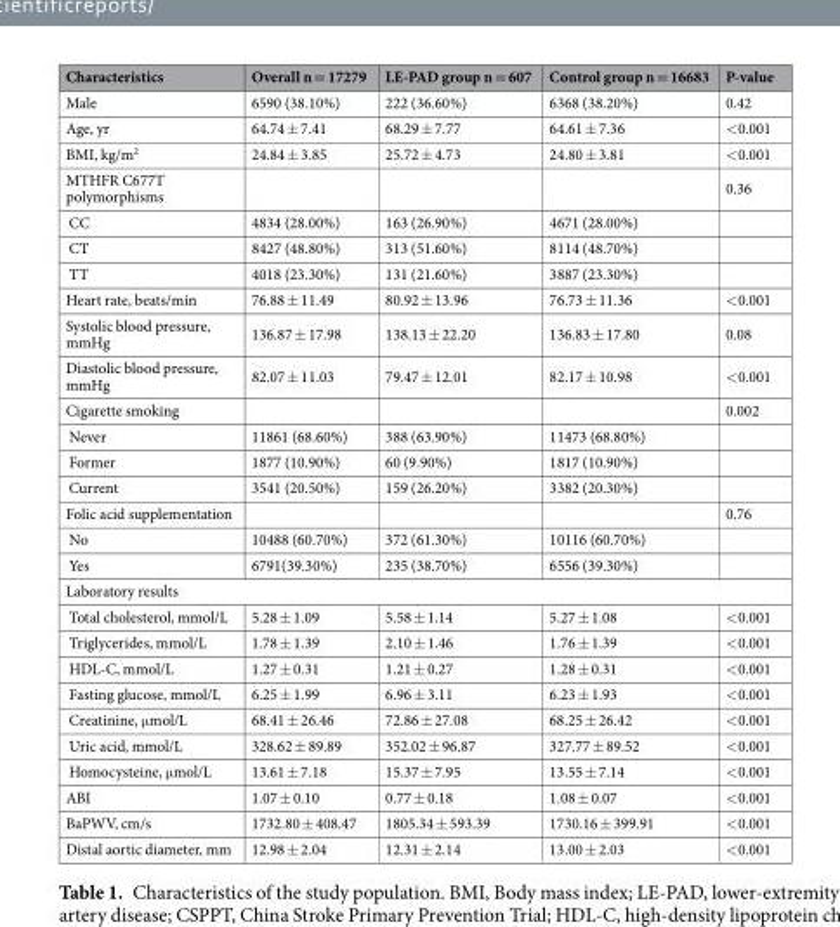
<table><thead><tr><td>Characteristics</td><td>Overall n = 17279</td><td>LE-PAD group n = 607</td><td>Control group n = 16683</td><td>P-value</td></tr></thead><tbody><tr><td>Male</td><td>6590 (38.10%)</td><td>222 (36.60%)</td><td>6368 (38.20%)</td><td>0.42</td></tr><tr><td>Age, yr</td><td>64.74 ± 7.41</td><td>68.29 ± 7.77</td><td>64.61 ± 7.36</td><td>&lt;0.001</td></tr><tr><td>BMI, kg/m<sup>2</sup></td><td>24.84 ± 3.85</td><td>25.72 ± 4.73</td><td>24.80 ± 3.81</td><td>&lt;0.001</td></tr><tr><td>MTHFR C677T polymorphisms</td><td></td><td></td><td></td><td>0.36</td></tr><tr><td>CC</td><td>4834 (28.00%)</td><td>163 (26.90%)</td><td>4671 (28.00%)</td><td></td></tr><tr><td>CT</td><td>8427 (48.80%)</td><td>313 (51.60%)</td><td>8114 (48.70%)</td><td></td></tr><tr><td>TT</td><td>4018 (23.30%)</td><td>131 (21.60%)</td><td>3887 (23.30%)</td><td></td></tr><tr><td>Heart rate, beats/min</td><td>76.88 ± 11.49</td><td>80.92 ± 13.96</td><td>76.73 ± 11.36</td><td>&lt;0.001</td></tr><tr><td>Systolic blood pressure, mmHg</td><td>136.87 ± 17.98</td><td>138.13 ± 22.20</td><td>136.83 ± 17.80</td><td>0.08</td></tr><tr><td>Diastolic blood pressure, mmHg</td><td>82.07 ± 11.03</td><td>79.47 ± 12.01</td><td>82.17 ± 10.98</td><td>&lt;0.001</td></tr><tr><td>Cigarette smoking</td><td></td><td></td><td></td><td>0.002</td></tr><tr><td>Never</td><td>11861 (68.60%)</td><td>388 (63.90%)</td><td>11473 (68.80%)</td><td></td></tr><tr><td>Former</td><td>1877 (10.90%)</td><td>60 (9.90%)</td><td>1817 (10.90%)</td><td></td></tr><tr><td>Current</td><td>3541 (20.50%)</td><td>159 (26.20%)</td><td>3382 (20.30%)</td><td></td></tr><tr><td>Folic acid supplementation</td><td></td><td></td><td></td><td>0.76</td></tr><tr><td>No</td><td>10488 (60.70%)</td><td>372 (61.30%)</td><td>10116 (60.70%)</td><td></td></tr><tr><td>Yes</td><td>6791(39.30%)</td><td>235 (38.70%)</td><td>6556 (39.30%)</td><td></td></tr><tr><td colspan="5">Laboratory results</td></tr><tr><td>Total cholesterol, mmol/L</td><td>5.28 ± 1.09</td><td>5.58 ± 1.14</td><td>5.27 ± 1.08</td><td>&lt;0.001</td></tr><tr><td>Triglycerides, mmol/L</td><td>1.78 ± 1.39</td><td>2.10 ± 1.46</td><td>1.76 ± 1.39</td><td>&lt;0.001</td></tr><tr><td>HDL-C, mmol/L</td><td>1.27 ± 0.31</td><td>1.21 ± 0.27</td><td>1.28 ± 0.31</td><td>&lt;0.001</td></tr><tr><td>Fasting glucose, mmol/L</td><td>6.25 ± 1.99</td><td>6.96 ± 3.11</td><td>6.23 ± 1.93</td><td>&lt;0.001</td></tr><tr><td>Creatinine, μmol/L</td><td>68.41 ± 26.46</td><td>72.86 ± 27.08</td><td>68.25 ± 26.42</td><td>&lt;0.001</td></tr><tr><td>Uric acid, mmol/L</td><td>328.62 ± 89.89</td><td>352.02 ± 96.87</td><td>327.77 ± 89.52</td><td>&lt;0.001</td></tr><tr><td>Homocysteine, μmol/L</td><td>13.61 ± 7.18</td><td>15.37 ± 7.95</td><td>13.55 ± 7.14</td><td>&lt;0.001</td></tr><tr><td>ABI</td><td>1.07 ± 0.10</td><td>0.77 ± 0.18</td><td>1.08 ± 0.07</td><td>&lt;0.001</td></tr><tr><td>BaPWV, cm/s</td><td>1732.80 ± 408.47</td><td>1805.34 ± 593.39</td><td>1730.16 ± 399.91</td><td>&lt;0.001</td></tr><tr><td>Distal aortic diameter, mm</td><td>12.98 ± 2.04</td><td>12.31 ± 2.14</td><td>13.00 ± 2.03</td><td>&lt;0.001</td></tr></tbody></table>